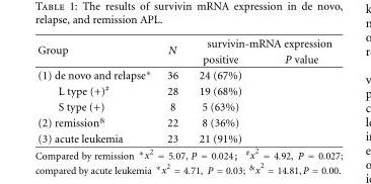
<table><thead><tr><td rowspan="2">Group</td><td rowspan="2">N</td><td colspan="2">survivin-mRNA expression</td></tr><tr><td>positive</td><td>P value</td></tr></thead><tbody><tr><td>(1) de novo and relapse∗</td><td>36</td><td>24 (67%)</td><td></td></tr><tr><td>L type (+)<sup>#</sup></td><td>28</td><td>19 (68%)</td><td></td></tr><tr><td>S type (+)</td><td>8</td><td>5 (63%)</td><td></td></tr><tr><td>(2) remission<sup>&amp;</sup></td><td>22</td><td>8 (36%)</td><td></td></tr><tr><td>(3) acute leukemia</td><td>23</td><td>21 (91%)</td><td></td></tr></tbody></table>